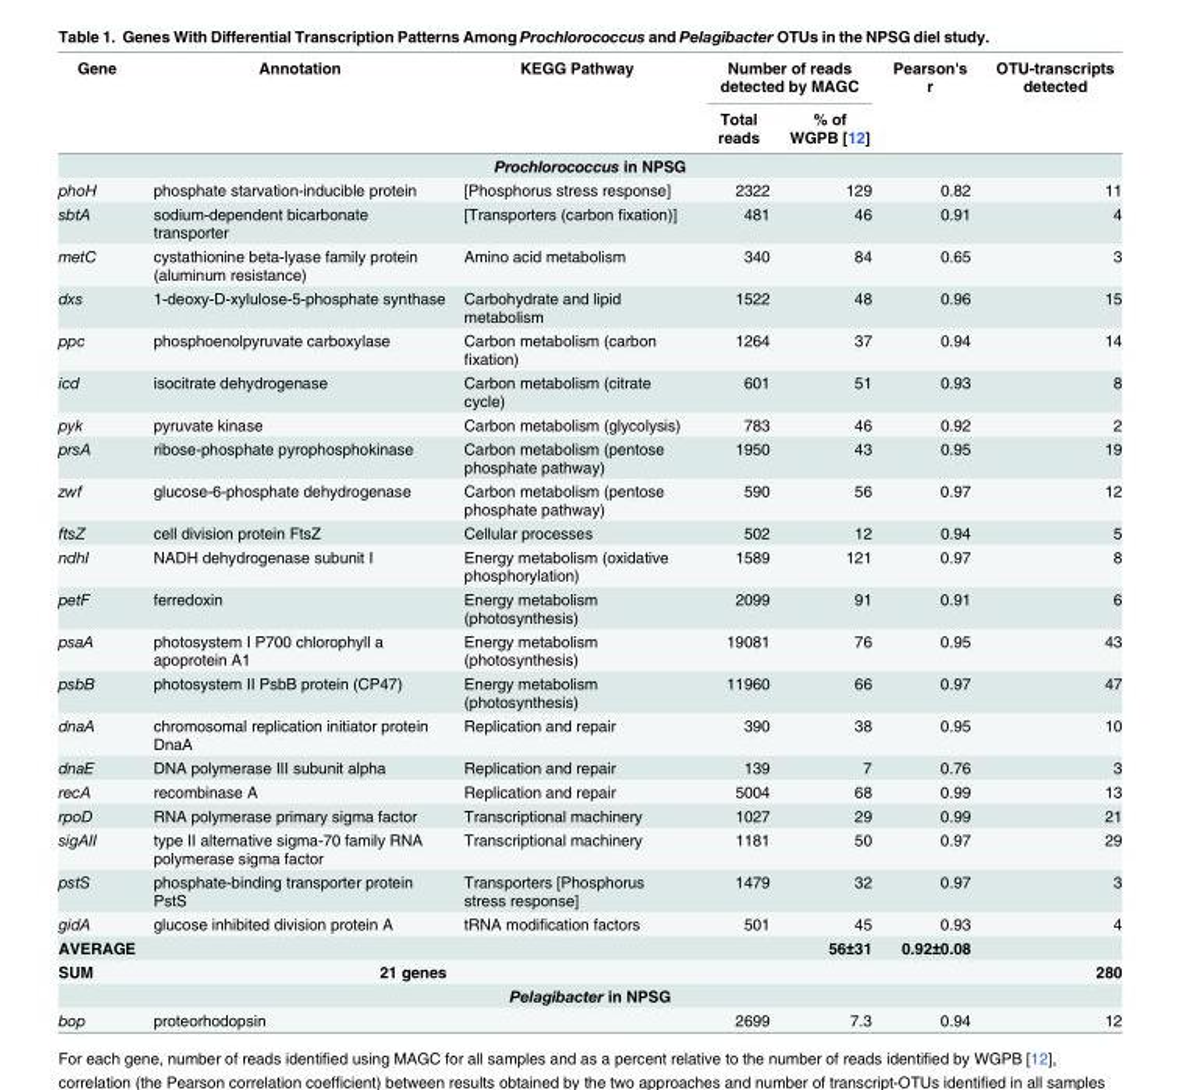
<table><thead><tr><td rowspan="2">Gene</td><td rowspan="2">Annotation</td><td rowspan="2">KEGG Pathway</td><td colspan="2">Number of reads detected by MAGC</td><td rowspan="2">Pearson&#x27;s r</td><td rowspan="2">OTU-transcripts detected</td></tr><tr><td>Total reads</td><td>% of WGPB [12]</td></tr></thead><tbody><tr><td colspan="7">Prochlorococcus in NPSG</td></tr><tr><td>phoH</td><td>phosphate starvation-inducible protein</td><td>[Phosphorus stress response]</td><td>2322</td><td>129</td><td>0.82</td><td>11</td></tr><tr><td>sbtA</td><td>sodium-dependent bicarbonate transporter</td><td>[Transporters (carbon fixation)]</td><td>481</td><td>46</td><td>0.91</td><td>4</td></tr><tr><td>metC</td><td>cystathionine beta-lyase family protein (aluminum resistance)</td><td>Amino acid metabolism</td><td>340</td><td>84</td><td>0.65</td><td>3</td></tr><tr><td>dxs</td><td>1-deoxy-D-xylulose-5-phosphate synthase</td><td>Carbohydrate and lipid metabolism</td><td>1522</td><td>48</td><td>0.96</td><td>15</td></tr><tr><td>ppc</td><td>phosphoenolpyruvate carboxylase</td><td>Carbon metabolism (carbon fixation)</td><td>1264</td><td>37</td><td>0.94</td><td>14</td></tr><tr><td>icd</td><td>isocitrate dehydrogenase</td><td>Carbon metabolism (citrate cycle)</td><td>601</td><td>51</td><td>0.93</td><td>8</td></tr><tr><td>pyk</td><td>pyruvate kinase</td><td>Carbon metabolism (glycolysis)</td><td>783</td><td>46</td><td>0.92</td><td>2</td></tr><tr><td>prsA</td><td>ribose-phosphate pyrophosphokinase</td><td>Carbon metabolism (pentose phosphate pathway)</td><td>1950</td><td>43</td><td>0.95</td><td>19</td></tr><tr><td>zwf</td><td>glucose-6-phosphate dehydrogenase</td><td>Carbon metabolism (pentose phosphate pathway)</td><td>590</td><td>56</td><td>0.97</td><td>12</td></tr><tr><td>ftsZ</td><td>cell division protein FtsZ</td><td>Cellular processes</td><td>502</td><td>12</td><td>0.94</td><td>5</td></tr><tr><td>ndhI</td><td>NADH dehydrogenase subunit I</td><td>Energy metabolism (oxidative phosphorylation)</td><td>1589</td><td>121</td><td>0.97</td><td>8</td></tr><tr><td>petF</td><td>ferredoxin</td><td>Energy metabolism (photosynthesis)</td><td>2099</td><td>91</td><td>0.91</td><td>6</td></tr><tr><td>psaA</td><td>photosystem I P700 chlorophyll a apoprotein A1</td><td>Energy metabolism (photosynthesis)</td><td>19081</td><td>76</td><td>0.95</td><td>43</td></tr><tr><td>psbB</td><td>photosystem II PsbB protein (CP47)</td><td>Energy metabolism (photosynthesis)</td><td>11960</td><td>66</td><td>0.97</td><td>47</td></tr><tr><td>dnaA</td><td>chromosomal replication initiator protein DnaA</td><td>Replication and repair</td><td>390</td><td>38</td><td>0.95</td><td>10</td></tr><tr><td>dnaE</td><td>DNA polymerase III subunit alpha</td><td>Replication and repair</td><td>139</td><td>7</td><td>0.76</td><td>3</td></tr><tr><td>recA</td><td>recombinase A</td><td>Replication and repair</td><td>5004</td><td>68</td><td>0.99</td><td>13</td></tr><tr><td>rpoD</td><td>RNA polymerase primary sigma factor</td><td>Transcriptional machinery</td><td>1027</td><td>29</td><td>0.99</td><td>21</td></tr><tr><td>sigAII</td><td>type II alternative sigma-70 family RNA polymerase sigma factor</td><td>Transcriptional machinery</td><td>1181</td><td>50</td><td>0.97</td><td>29</td></tr><tr><td>pstS</td><td>phosphate-binding transporter protein PstS</td><td>Transporters [Phosphorus stress response]</td><td>1479</td><td>32</td><td>0.97</td><td>3</td></tr><tr><td>gidA</td><td>glucose inhibited division protein A</td><td>tRNA modification factors</td><td>501</td><td>45</td><td>0.93</td><td>4</td></tr><tr><td>AVERAGE</td><td></td><td></td><td></td><td>56±31</td><td>0.92±0.08</td><td></td></tr><tr><td>SUM</td><td>21 genes</td><td></td><td></td><td></td><td></td><td>280</td></tr><tr><td colspan="7">Pelagibacter in NPSG</td></tr><tr><td>bop</td><td>proteorhodopsin</td><td></td><td>2699</td><td>7.3</td><td>0.94</td><td>12</td></tr></tbody></table>